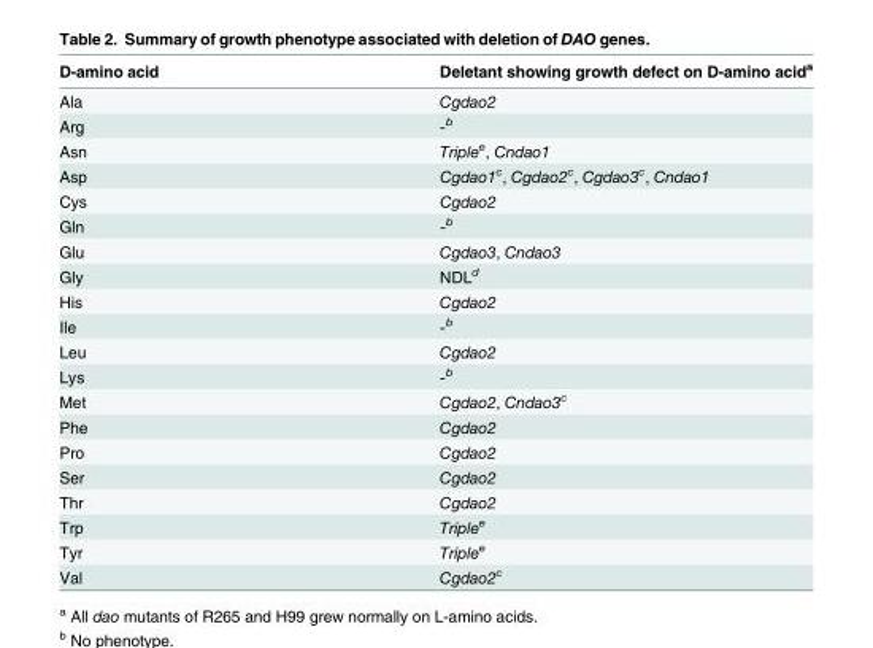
<table><thead><tr><td>D-amino acid</td><td>Deletant showing growth defect on D-amino acid<sup>a</sup></td></tr></thead><tbody><tr><td>Ala</td><td>Cgdao2</td></tr><tr><td>Arg</td><td>-<sup>b</sup></td></tr><tr><td>Asn</td><td>Triple<sup>e</sup>, Cndao1</td></tr><tr><td>Asp</td><td>Cgdao1<sup>c</sup>, Cgdao2<sup>c</sup>, Cgdao3<sup>c</sup>, Cndao1</td></tr><tr><td>Cys</td><td>Cgdao2</td></tr><tr><td>Gln</td><td>-<sup>b</sup></td></tr><tr><td>Glu</td><td>Cgdao3, Cndao3</td></tr><tr><td>Gly</td><td>NDL<sup>d</sup></td></tr><tr><td>His</td><td>Cgdao2</td></tr><tr><td>Ile</td><td>-<sup>b</sup></td></tr><tr><td>Leu</td><td>Cgdao2</td></tr><tr><td>Lys</td><td>-<sup>b</sup></td></tr><tr><td>Met</td><td>Cgdao2, Cndao3<sup>c</sup></td></tr><tr><td>Phe</td><td>Cgdao2</td></tr><tr><td>Pro</td><td>Cgdao2</td></tr><tr><td>Ser</td><td>Cgdao2</td></tr><tr><td>Thr</td><td>Cgdao2</td></tr><tr><td>Trp</td><td>Triple<sup>e</sup></td></tr><tr><td>Tyr</td><td>Triple<sup>e</sup></td></tr><tr><td>Val</td><td>Cgdao2<sup>c</sup></td></tr></tbody></table>